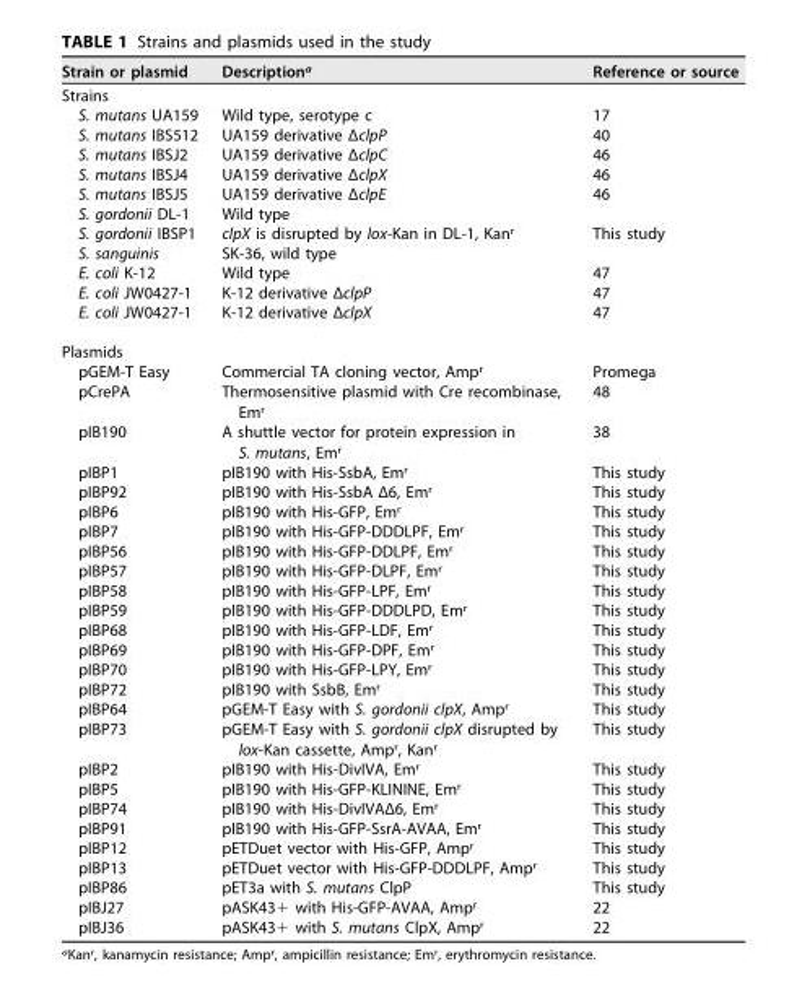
<table><thead><tr><td>Strain or plasmid</td><td>Description<sup>a</sup></td><td>Reference or source</td></tr></thead><tbody><tr><td colspan="3">Strains</td></tr><tr><td>S. mutans UA159</td><td>Wild type, serotype c</td><td>17</td></tr><tr><td>S. mutans IBS512</td><td>UA159 derivative ΔclpP</td><td>40</td></tr><tr><td>S. mutans IBSJ2</td><td>UA159 derivative ΔclpC</td><td>46</td></tr><tr><td>S. mutans IBSJ4</td><td>UA159 derivative ΔclpX</td><td>46</td></tr><tr><td>S. mutans IBSJ5</td><td>UA159 derivative ΔclpE</td><td>46</td></tr><tr><td>S. gordonii DL-1</td><td>Wild type</td><td></td></tr><tr><td>S. gordonii IBSP1</td><td>clpX is disrupted by lox-Kan in DL-1, Kan<sup>r</sup></td><td>This study</td></tr><tr><td>S. sanguinis</td><td>SK-36, wild type</td><td></td></tr><tr><td>E. coli K-12</td><td>Wild type</td><td>47</td></tr><tr><td>E. coli JW0427-1</td><td>K-12 derivative ΔclpP</td><td>47</td></tr><tr><td>E. coli JW0427-1</td><td>K-12 derivative ΔclpX</td><td>47</td></tr><tr><td colspan="3">Plasmids</td></tr><tr><td>pGEM-T Easy</td><td>Commercial TA cloning vector, Amp<sup>r</sup></td><td>Promega</td></tr><tr><td>pCrePA</td><td>Thermosensitive plasmid with Cre recombinase, Em<sup>r</sup></td><td>48</td></tr><tr><td>pIB190</td><td>A shuttle vector for protein expression in S. mutans, Em<sup>r</sup></td><td>38</td></tr><tr><td>pIBP1</td><td>pIB190 with His-SsbA, Em<sup>r</sup></td><td>This study</td></tr><tr><td>pIBP92</td><td>pIB190 with His-SsbA Δ6, Em<sup>r</sup></td><td>This study</td></tr><tr><td>pIBP6</td><td>pIB190 with His-GFP, Em<sup>r</sup></td><td>This study</td></tr><tr><td>pIBP7</td><td>pIB190 with His-GFP-DDDLPF, Em<sup>r</sup></td><td>This study</td></tr><tr><td>pIBP56</td><td>pIB190 with His-GFP-DDLPF, Em<sup>r</sup></td><td>This study</td></tr><tr><td>pIBP57</td><td>pIB190 with His-GFP-DLPF, Em<sup>r</sup></td><td>This study</td></tr><tr><td>pIBP58</td><td>pIB190 with His-GFP-LPF, Em<sup>r</sup></td><td>This study</td></tr><tr><td>pIBP59</td><td>pIB190 with His-GFP-DDDLPD, Em<sup>r</sup></td><td>This study</td></tr><tr><td>pIBP68</td><td>pIB190 with His-GFP-LDF, Em<sup>r</sup></td><td>This study</td></tr><tr><td>pIBP69</td><td>pIB190 with His-GFP-DPF, Em<sup>r</sup></td><td>This study</td></tr><tr><td>pIBP70</td><td>pIB190 with His-GFP-LPY, Em<sup>r</sup></td><td>This study</td></tr><tr><td>pIBP72</td><td>pIB190 with SsbB, Em<sup>r</sup></td><td>This study</td></tr><tr><td>pIBP64</td><td>pGEM-T Easy with S. gordonii clpX, Amp<sup>r</sup></td><td>This study</td></tr><tr><td>pIBP73</td><td>pGEM-T Easy with S. gordonii clpX disrupted by lox-Kan cassette, Amp<sup>r</sup>, Kan<sup>r</sup></td><td>This study</td></tr><tr><td>pIBP2</td><td>pIB190 with His-DivIVA, Em<sup>r</sup></td><td>This study</td></tr><tr><td>pIBP5</td><td>pIB190 with His-GFP-KLININE, Em<sup>r</sup></td><td>This study</td></tr><tr><td>pIBP74</td><td>pIB190 with His-DivIVAΔ6, Em<sup>r</sup></td><td>This study</td></tr><tr><td>pIBP91</td><td>pIB190 with His-GFP-SsrA-AVAA, Em<sup>r</sup></td><td>This study</td></tr><tr><td>pIBP12</td><td>pETDuet vector with His-GFP, Amp<sup>r</sup></td><td>This study</td></tr><tr><td>pIBP13</td><td>pETDuet vector with His-GFP-DDDLPF, Amp<sup>r</sup></td><td>This study</td></tr><tr><td>pIBP86</td><td>pET3a with S. mutans ClpP</td><td>This study</td></tr><tr><td>pIBJ27</td><td>pASK43+ with His-GFP-AVAA, Amp<sup>r</sup></td><td>22</td></tr><tr><td>pIBJ36</td><td>pASK43+ with S. mutans ClpX, Amp<sup>r</sup></td><td>22</td></tr></tbody></table>